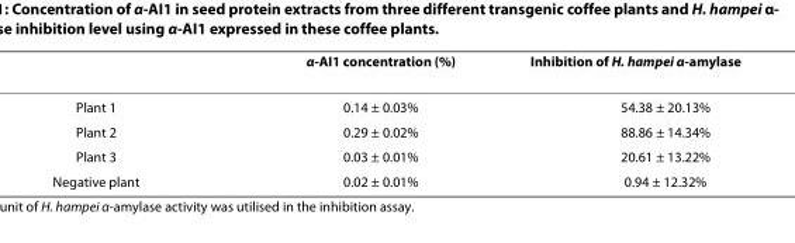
<table><thead><tr><td></td><td>α-AI1 concentration (%)</td><td>Inhibition of H. hampei α-amylase</td></tr></thead><tbody><tr><td>Plant 1</td><td>0.14 ± 0.03%</td><td>54.38 ± 20.13%</td></tr><tr><td>Plant 2</td><td>0.29 ± 0.02%</td><td>88.86 ± 14.34%</td></tr><tr><td>Plant 3</td><td>0.03 ± 0.01%</td><td>20.61 ± 13.22%</td></tr><tr><td>Negative plant</td><td>0.02 ± 0.01%</td><td>0.94 ± 12.32%</td></tr></tbody></table>